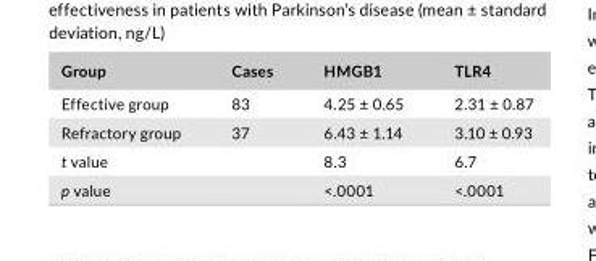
<table><thead><tr><td>Group</td><td>Cases</td><td>HMGB1</td><td>TLR4</td></tr></thead><tbody><tr><td>Effective group</td><td>83</td><td>4.25 ± 0.65</td><td>2.31 ± 0.87</td></tr><tr><td>Refractory group</td><td>37</td><td>6.43 ± 1.14</td><td>3.10 ± 0.93</td></tr><tr><td>t value</td><td></td><td>8.3</td><td>6.7</td></tr><tr><td>p value</td><td></td><td>&lt;.0001</td><td>&lt;.0001</td></tr></tbody></table>